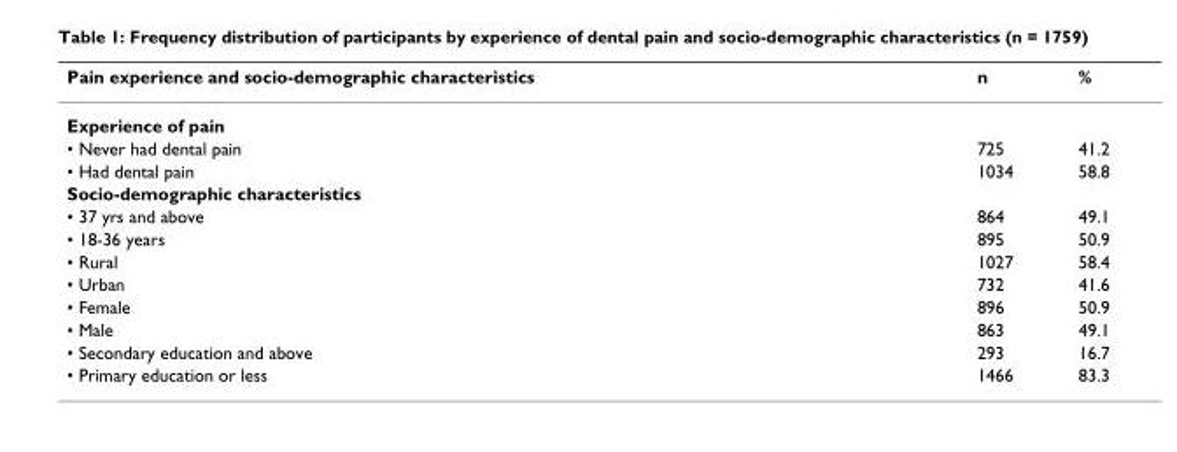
<table><thead><tr><td>Pain experience and socio-demographic characteristics</td><td>n</td><td>%</td></tr></thead><tbody><tr><td colspan="3">Experience of pain</td></tr><tr><td>• Never had dental pain</td><td>725</td><td>41.2</td></tr><tr><td>• Had dental pain</td><td>1034</td><td>58.8</td></tr><tr><td colspan="3">Socio-demographic characteristics</td></tr><tr><td>• 37 yrs and above</td><td>864</td><td>49.1</td></tr><tr><td>• 18-36 years</td><td>895</td><td>50.9</td></tr><tr><td>• Rural</td><td>1027</td><td>58.4</td></tr><tr><td>• Urban</td><td>732</td><td>41.6</td></tr><tr><td>• Female</td><td>896</td><td>50.9</td></tr><tr><td>• Male</td><td>863</td><td>49.1</td></tr><tr><td>• Secondary education and above</td><td>293</td><td>16.7</td></tr><tr><td>• Primary education or less</td><td>1466</td><td>83.3</td></tr></tbody></table>